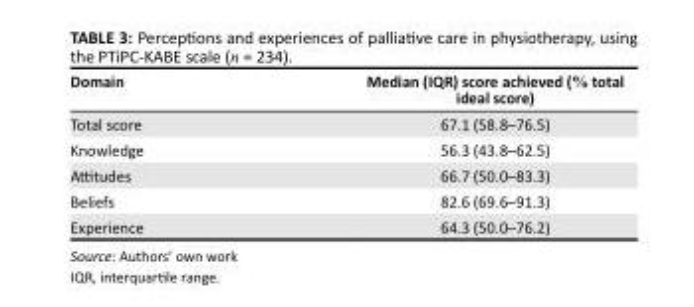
<table><thead><tr><td>Domain</td><td>Median (IQR) score achieved (% total ideal score)</td></tr></thead><tbody><tr><td>Total score</td><td>67.1 (58.8–76.5)</td></tr><tr><td>Knowledge</td><td>56.3 (43.8–62.5)</td></tr><tr><td>Attitudes</td><td>66.7 (50.0–83.3)</td></tr><tr><td>Beliefs</td><td>82.6 (69.6–91.3)</td></tr><tr><td>Experience</td><td>64.3 (50.0–76.2)</td></tr></tbody></table>